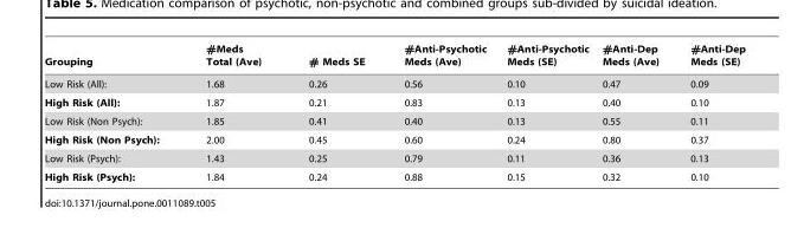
<table><thead><tr><td>Grouping</td><td>#Meds Total (Ave)</td><td># Meds SE</td><td>#Anti-Psychotic Meds (Ave)</td><td>#Anti-Psychotic Meds (SE)</td><td>#Anti-Dep Meds (Ave)</td><td>#Anti-Dep Meds (SE)</td></tr></thead><tbody><tr><td>Low Risk (All):</td><td>1.68</td><td>0.26</td><td>0.56</td><td>0.10</td><td>0.47</td><td>0.09</td></tr><tr><td>High Risk (All):</td><td>1.87</td><td>0.21</td><td>0.83</td><td>0.13</td><td>0.40</td><td>0.10</td></tr><tr><td>Low Risk (Non Psych):</td><td>1.85</td><td>0.41</td><td>0.40</td><td>0.13</td><td>0.55</td><td>0.11</td></tr><tr><td>High Risk (Non Psych):</td><td>2.00</td><td>0.45</td><td>0.60</td><td>0.24</td><td>0.80</td><td>0.37</td></tr><tr><td>Low Risk (Psych):</td><td>1.43</td><td>0.25</td><td>0.79</td><td>0.11</td><td>0.36</td><td>0.13</td></tr><tr><td>High Risk (Psych):</td><td>1.84</td><td>0.24</td><td>0.88</td><td>0.15</td><td>0.32</td><td>0.10</td></tr></tbody></table>